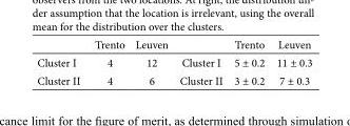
<table><thead><tr><td></td><td>Trento</td><td>Leuven</td><td></td><td>Trento</td><td>Leuven</td></tr></thead><tbody><tr><td>Cluster I</td><td>4</td><td>12</td><td>Cluster I</td><td>5 ± 0.2</td><td>11 ± 0.3</td></tr><tr><td>Cluster II</td><td>4</td><td>6</td><td>Cluster II</td><td>3 ± 0.2</td><td>7 ± 0.3</td></tr></tbody></table>